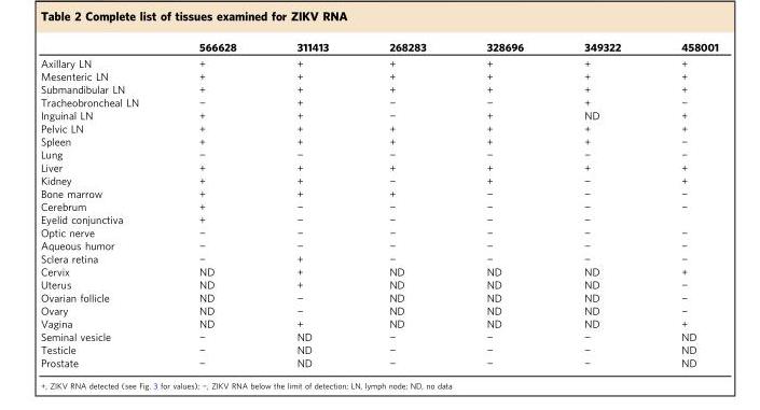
<table><thead><tr><td></td><td>566628</td><td>311413</td><td>268283</td><td>328696</td><td>349322</td><td>458001</td></tr></thead><tbody><tr><td>Axillary LN</td><td>+</td><td>+</td><td>+</td><td>+</td><td>+</td><td>+</td></tr><tr><td>Mesenteric LN</td><td>+</td><td>+</td><td>+</td><td>+</td><td>+</td><td>+</td></tr><tr><td>Submandibular LN</td><td>+</td><td>+</td><td>+</td><td>+</td><td>+</td><td>+</td></tr><tr><td>Tracheobroncheal LN</td><td>−</td><td>+</td><td>−</td><td>−</td><td>+</td><td>−</td></tr><tr><td>Inguinal LN</td><td>+</td><td>+</td><td>−</td><td>+</td><td>ND</td><td>+</td></tr><tr><td>Pelvic LN</td><td>+</td><td>+</td><td>+</td><td>+</td><td>+</td><td>+</td></tr><tr><td>Spleen</td><td>+</td><td>+</td><td>+</td><td>+</td><td>+</td><td>−</td></tr><tr><td>Lung</td><td>−</td><td>−</td><td>−</td><td>−</td><td>−</td><td>−</td></tr><tr><td>Liver</td><td>+</td><td>+</td><td>+</td><td>+</td><td>+</td><td>+</td></tr><tr><td>Kidney</td><td>+</td><td>+</td><td>−</td><td>+</td><td>−</td><td>+</td></tr><tr><td>Bone marrow</td><td>+</td><td>+</td><td>+</td><td>−</td><td>−</td><td>−</td></tr><tr><td>Cerebrum</td><td>+</td><td>−</td><td>−</td><td>−</td><td>−</td><td>−</td></tr><tr><td>Eyelid conjunctiva</td><td>+</td><td>−</td><td>−</td><td>−</td><td>−</td><td></td></tr><tr><td>Optic nerve</td><td>−</td><td>−</td><td>−</td><td>−</td><td>−</td><td>−</td></tr><tr><td>Aqueous humor</td><td>−</td><td>−</td><td>−</td><td>−</td><td>−</td><td>−</td></tr><tr><td>Sclera retina</td><td>−</td><td>+</td><td>−</td><td>−</td><td>−</td><td>−</td></tr><tr><td>Cervix</td><td>ND</td><td>+</td><td>ND</td><td>ND</td><td>ND</td><td>+</td></tr><tr><td>Uterus</td><td>ND</td><td>+</td><td>ND</td><td>ND</td><td>ND</td><td>−</td></tr><tr><td>Ovarian follicle</td><td>ND</td><td>−</td><td>ND</td><td>ND</td><td>ND</td><td>−</td></tr><tr><td>Ovary</td><td>ND</td><td>−</td><td>ND</td><td>ND</td><td>ND</td><td>−</td></tr><tr><td>Vagina</td><td>ND</td><td>+</td><td>ND</td><td>ND</td><td>ND</td><td>+</td></tr><tr><td>Seminal vesicle</td><td>−</td><td>ND</td><td>−</td><td>−</td><td>−</td><td>ND</td></tr><tr><td>Testicle</td><td>−</td><td>ND</td><td>−</td><td>−</td><td>−</td><td>ND</td></tr><tr><td>Prostate</td><td>−</td><td>ND</td><td>−</td><td>−</td><td>−</td><td>ND</td></tr></tbody></table>